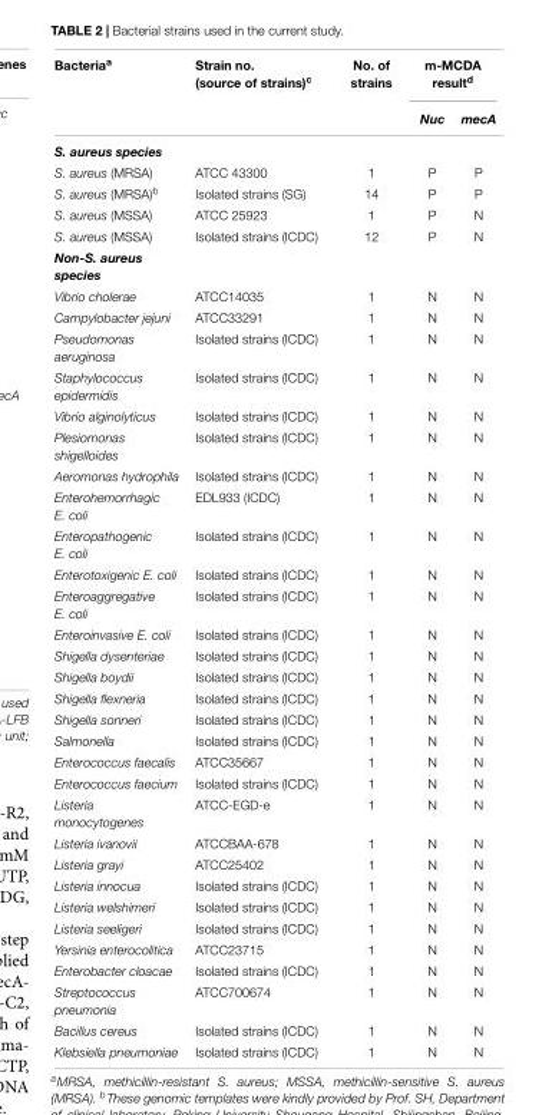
<table><thead><tr><td rowspan="2">Bacteria<sup>a</sup></td><td rowspan="2">Strain no. (source of strains)<sup>c</sup></td><td rowspan="2">No. of strains</td><td colspan="2">m-MCDA result<sup>d</sup></td></tr><tr><td>Nuc</td><td>mecA</td></tr></thead><tbody><tr><td colspan="5">S. aureus species</td></tr><tr><td>S. aureus (MRSA)</td><td>ATCC 43300</td><td>1</td><td>P</td><td>P</td></tr><tr><td>S. aureus (MRSA)<sup>b</sup></td><td>Isolated strains (SG)</td><td>14</td><td>P</td><td>P</td></tr><tr><td>S. aureus (MSSA)</td><td>ATCC 25923</td><td>1</td><td>P</td><td>N</td></tr><tr><td>S. aureus (MSSA)</td><td>Isolated strains (ICDC)</td><td>12</td><td>P</td><td>N</td></tr><tr><td colspan="5">Non-S. aureus species</td></tr><tr><td>Vibrio cholerae</td><td>ATCC14035</td><td>1</td><td>N</td><td>N</td></tr><tr><td>Campylobacter jejuni</td><td>ATCC33291</td><td>1</td><td>N</td><td>N</td></tr><tr><td>Pseudomonas aeruginosa</td><td>Isolated strains (ICDC)</td><td>1</td><td>N</td><td>N</td></tr><tr><td>Staphylococcus epidermidis</td><td>Isolated strains (ICDC)</td><td>1</td><td>N</td><td>N</td></tr><tr><td>Vibrio alginolyticus</td><td>Isolated strains (ICDC)</td><td>1</td><td>N</td><td>N</td></tr><tr><td>Plesiomonas shigelloides</td><td>Isolated strains (ICDC)</td><td>1</td><td>N</td><td>N</td></tr><tr><td>Aeromonas hydrophila</td><td>Isolated strains (ICDC)</td><td>1</td><td>N</td><td>N</td></tr><tr><td>Enterohemorrhagic E. coli</td><td>EDL933 (ICDC)</td><td>1</td><td>N</td><td>N</td></tr><tr><td>Enteropathogenic E. coli</td><td>Isolated strains (ICDC)</td><td>1</td><td>N</td><td>N</td></tr><tr><td>Enterotoxigenic E. coli</td><td>Isolated strains (ICDC)</td><td>1</td><td>N</td><td>N</td></tr><tr><td>Enteroaggregative E. coli</td><td>Isolated strains (ICDC)</td><td>1</td><td>N</td><td>N</td></tr><tr><td>Enteroinvasive E. coli</td><td>Isolated strains (ICDC)</td><td>1</td><td>N</td><td>N</td></tr><tr><td>Shigella dysenteriae</td><td>Isolated strains (ICDC)</td><td>1</td><td>N</td><td>N</td></tr><tr><td>Shigella boydii</td><td>Isolated strains (ICDC)</td><td>1</td><td>N</td><td>N</td></tr><tr><td>Shigella flexneria</td><td>Isolated strains (ICDC)</td><td>1</td><td>N</td><td>N</td></tr><tr><td>Shigella sonneri</td><td>Isolated strains (ICDC)</td><td>1</td><td>N</td><td>N</td></tr><tr><td>Salmonella</td><td>Isolated strains (ICDC)</td><td>1</td><td>N</td><td>N</td></tr><tr><td>Enterococcus faecalis</td><td>ATCC35667</td><td>1</td><td>N</td><td>N</td></tr><tr><td>Enterococcus faecium</td><td>Isolated strains (ICDC)</td><td>1</td><td>N</td><td>N</td></tr><tr><td>Listeria monocytogenes</td><td>ATCC-EGD-e</td><td>1</td><td>N</td><td>N</td></tr><tr><td>Listeria ivanovii</td><td>ATCCBAA-678</td><td>1</td><td>N</td><td>N</td></tr><tr><td>Listeria grayi</td><td>ATCC25402</td><td>1</td><td>N</td><td>N</td></tr><tr><td>Listeria innocua</td><td>Isolated strains (ICDC)</td><td>1</td><td>N</td><td>N</td></tr><tr><td>Listeria welshimeri</td><td>Isolated strains (ICDC)</td><td>1</td><td>N</td><td>N</td></tr><tr><td>Listeria seeligeri</td><td>Isolated strains (ICDC)</td><td>1</td><td>N</td><td>N</td></tr><tr><td>Yersinia enterocolitica</td><td>ATCC23715</td><td>1</td><td>N</td><td>N</td></tr><tr><td>Enterobacter cloacae</td><td>Isolated strains (ICDC)</td><td>1</td><td>N</td><td>N</td></tr><tr><td>Streptococcus pneumonia</td><td>ATCC700674</td><td>1</td><td>N</td><td>N</td></tr><tr><td>Bacillus cereus</td><td>Isolated strains (ICDC)</td><td>1</td><td>N</td><td>N</td></tr><tr><td>Klebsiella pneumoniae</td><td>Isolated strains (ICDC)</td><td>1</td><td>N</td><td>N</td></tr></tbody></table>